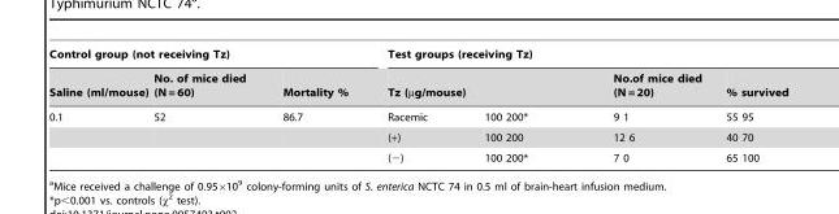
<table><thead><tr><td colspan="3">Control group (not receiving Tz)</td><td colspan="4">Test groups (receiving Tz)</td></tr><tr><td rowspan="2">Saline (ml/mouse) 0.1</td><td rowspan="2">No. of mice died (N = 60) 52</td><td rowspan="2">Mortality % 86.7</td><td colspan="2">Tz (µg/mouse)</td><td rowspan="2">No.of mice died (N = 20) 9 1</td><td rowspan="2">% survived 55 95</td></tr><tr><td>Racemic</td><td>100 200*</td></tr></thead><tbody><tr><td></td><td></td><td></td><td>(+)</td><td>100 200</td><td>12 6</td><td>40 70</td></tr><tr><td></td><td></td><td></td><td>(−)</td><td>100 200*</td><td>7 0</td><td>65 100</td></tr></tbody></table>